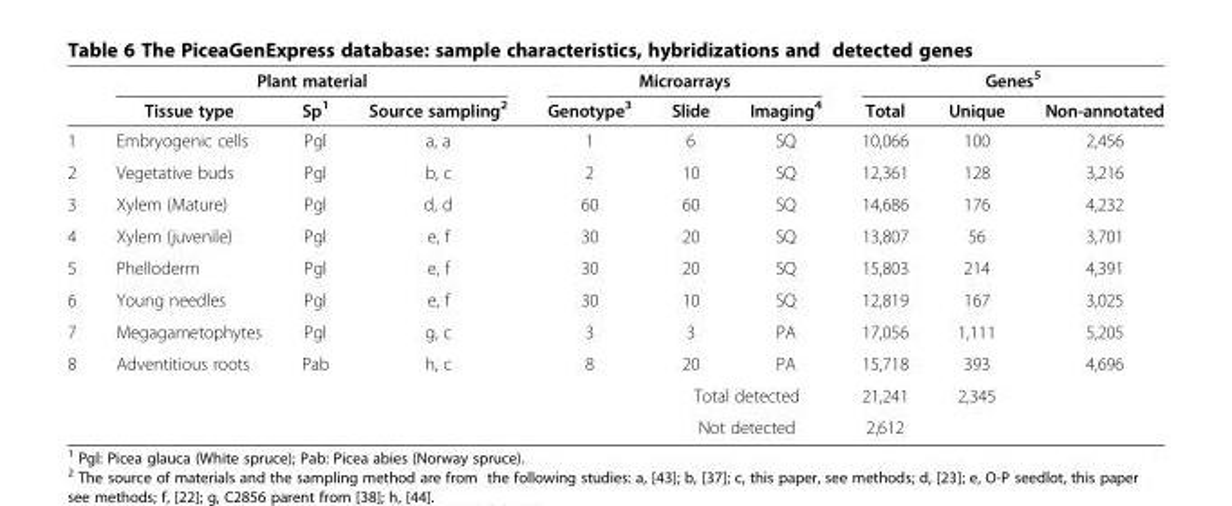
<table><thead><tr><td rowspan="2"></td><td colspan="3">Plant material</td><td colspan="3">Microarrays</td><td colspan="3">Genes<sup>5</sup></td></tr><tr><td>Tissue type</td><td>Sp<sup>1</sup></td><td>Source sampling<sup>2</sup></td><td>Genotype<sup>3</sup></td><td>Slide</td><td>Imaging<sup>4</sup></td><td>Total</td><td>Unique</td><td>Non-annotated</td></tr></thead><tbody><tr><td>1</td><td>Embryogenic cells</td><td>Pgl</td><td>a, a</td><td>1</td><td>6</td><td>SQ</td><td>10,066</td><td>100</td><td>2,456</td></tr><tr><td>2</td><td>Vegetative buds</td><td>Pgl</td><td>b, c</td><td>2</td><td>10</td><td>SQ</td><td>12,361</td><td>128</td><td>3,216</td></tr><tr><td>3</td><td>Xylem (Mature)</td><td>Pgl</td><td>d, d</td><td>60</td><td>60</td><td>SQ</td><td>14,686</td><td>176</td><td>4,232</td></tr><tr><td>4</td><td>Xylem (juvenile)</td><td>Pgl</td><td>e, f</td><td>30</td><td>20</td><td>SQ</td><td>13,807</td><td>56</td><td>3,701</td></tr><tr><td>5</td><td>Phelloderm</td><td>Pgl</td><td>e, f</td><td>30</td><td>20</td><td>SQ</td><td>15,803</td><td>214</td><td>4,391</td></tr><tr><td>6</td><td>Young needles</td><td>Pgl</td><td>e, f</td><td>30</td><td>10</td><td>SQ</td><td>12,819</td><td>167</td><td>3,025</td></tr><tr><td>7</td><td>Megagametophytes</td><td>Pgl</td><td>g, c</td><td>3</td><td>3</td><td>PA</td><td>17,056</td><td>1,111</td><td>5,205</td></tr><tr><td rowspan="3">8</td><td>Adventitious roots</td><td>Pab</td><td>h, c</td><td>8</td><td>20</td><td>PA</td><td>15,718</td><td>393</td><td>4,696</td></tr><tr><td></td><td></td><td></td><td></td><td colspan="2">Total detected</td><td>21,241</td><td>2,345</td><td></td></tr><tr><td></td><td></td><td></td><td></td><td colspan="2">Not detected</td><td>2,612</td><td></td><td></td></tr></tbody></table>